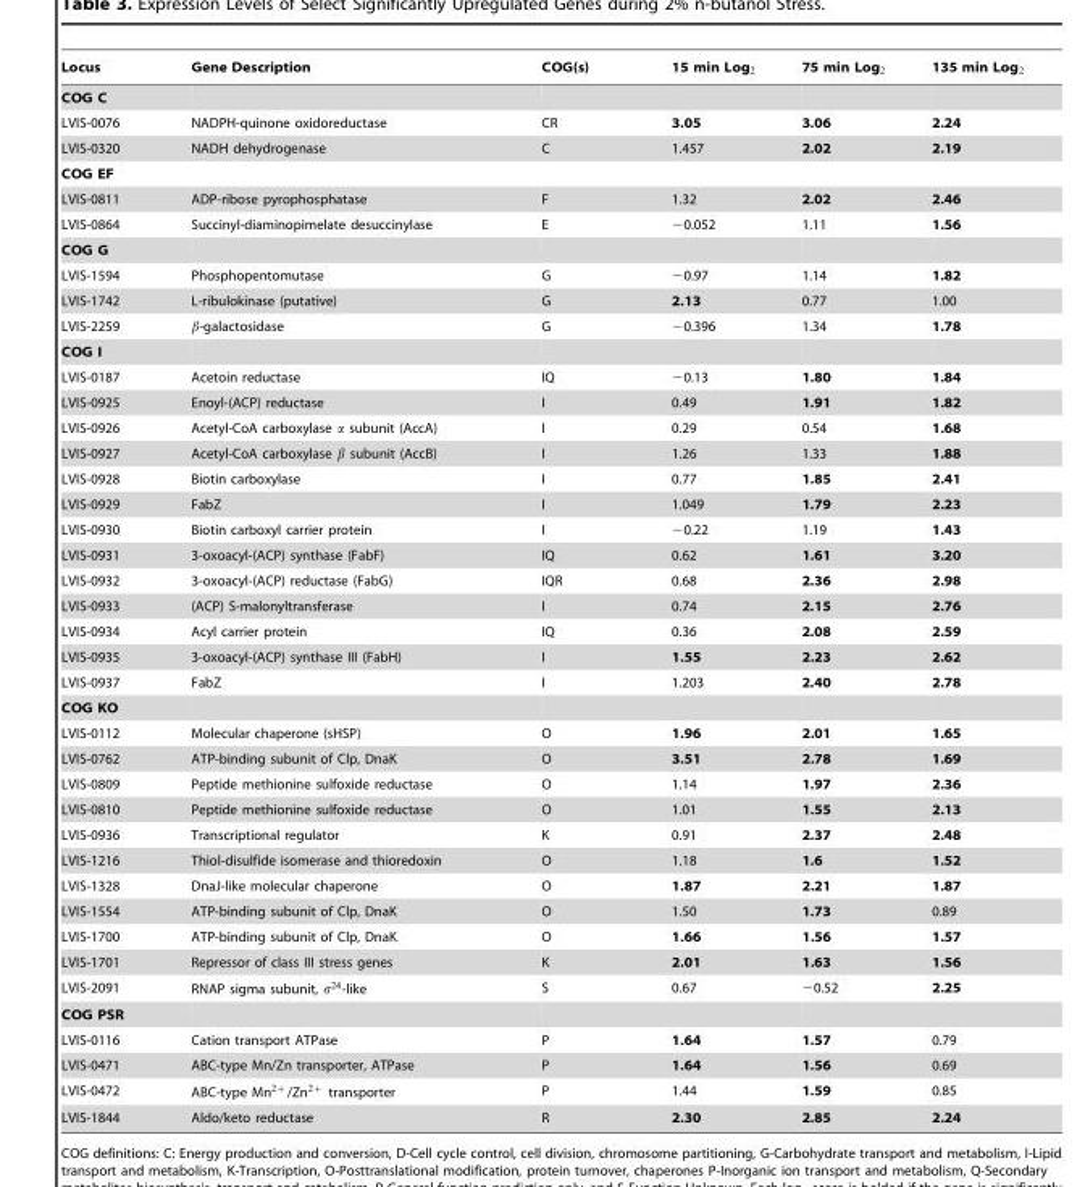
<table><thead><tr><td>Locus</td><td>Gene Description</td><td>COG(s)</td><td>15 min Log2</td><td>75 min Log2</td><td>135 min Log2</td></tr></thead><tbody><tr><td colspan="6">COG C</td></tr><tr><td>LVIS-0076</td><td>NADPH-quinone oxidoreductase</td><td>CR</td><td>3.05</td><td>3.06</td><td>2.24</td></tr><tr><td>LVIS-0320</td><td>NADH dehydrogenase</td><td>C</td><td>1.457</td><td>2.02</td><td>2.19</td></tr><tr><td colspan="6">COG EF</td></tr><tr><td>LVIS-0811</td><td>ADP-ribose pyrophosphatase</td><td>F</td><td>1.32</td><td>2.02</td><td>2.46</td></tr><tr><td>LVIS-0864</td><td>Succinyl-diaminopimelate desuccinylase</td><td>E</td><td>−0.052</td><td>1.11</td><td>1.56</td></tr><tr><td colspan="6">COG G</td></tr><tr><td>LVIS-1594</td><td>Phosphopentomutase</td><td>G</td><td>−0.97</td><td>1.14</td><td>1.82</td></tr><tr><td>LVIS-1742</td><td>L-ribulokinase (putative)</td><td>G</td><td>2.13</td><td>0.77</td><td>1.00</td></tr><tr><td>LVIS-2259</td><td>b-galactosidase</td><td>G</td><td>−0.396</td><td>1.34</td><td>1.78</td></tr><tr><td colspan="6">COG I</td></tr><tr><td>LVIS-0187</td><td>Acetoin reductase</td><td>IQ</td><td>−0.13</td><td>1.80</td><td>1.84</td></tr><tr><td>LVIS-0925</td><td>Enoyl-(ACP) reductase</td><td>I</td><td>0.49</td><td>1.91</td><td>1.82</td></tr><tr><td>LVIS-0926</td><td>Acetyl-CoA carboxylase a subunit (AccA)</td><td>I</td><td>0.29</td><td>0.54</td><td>1.68</td></tr><tr><td>LVIS-0927</td><td>Acetyl-CoA carboxylase b subunit (AccB)</td><td>I</td><td>1.26</td><td>1.33</td><td>1.88</td></tr><tr><td>LVIS-0928</td><td>Biotin carboxylase</td><td>I</td><td>0.77</td><td>1.85</td><td>2.41</td></tr><tr><td>LVIS-0929</td><td>FabZ</td><td>I</td><td>1.049</td><td>1.79</td><td>2.23</td></tr><tr><td>LVIS-0930</td><td>Biotin carboxyl carrier protein</td><td>I</td><td>−0.22</td><td>1.19</td><td>1.43</td></tr><tr><td>LVIS-0931</td><td>3-oxoacyl-(ACP) synthase (FabF)</td><td>IQ</td><td>0.62</td><td>1.61</td><td>3.20</td></tr><tr><td>LVIS-0932</td><td>3-oxoacyl-(ACP) reductase (FabG)</td><td>IQR</td><td>0.68</td><td>2.36</td><td>2.98</td></tr><tr><td>LVIS-0933</td><td>(ACP) S-malonyltransferase</td><td>I</td><td>0.74</td><td>2.15</td><td>2.76</td></tr><tr><td>LVIS-0934</td><td>Acyl carrier protein</td><td>IQ</td><td>0.36</td><td>2.08</td><td>2.59</td></tr><tr><td>LVIS-0935</td><td>3-oxoacyl-(ACP) synthase III (FabH)</td><td>I</td><td>1.55</td><td>2.23</td><td>2.62</td></tr><tr><td>LVIS-0937</td><td>FabZ</td><td>I</td><td>1.203</td><td>2.40</td><td>2.78</td></tr><tr><td colspan="6">COG KO</td></tr><tr><td>LVIS-0112</td><td>Molecular chaperone (sHSP)</td><td>O</td><td>1.96</td><td>2.01</td><td>1.65</td></tr><tr><td>LVIS-0762</td><td>ATP-binding subunit of Clp, DnaK</td><td>O</td><td>3.51</td><td>2.78</td><td>1.69</td></tr><tr><td>LVIS-0809</td><td>Peptide methionine sulfoxide reductase</td><td>O</td><td>1.14</td><td>1.97</td><td>2.36</td></tr><tr><td>LVIS-0810</td><td>Peptide methionine sulfoxide reductase</td><td>O</td><td>1.01</td><td>1.55</td><td>2.13</td></tr><tr><td>LVIS-0936</td><td>Transcriptional regulator</td><td>K</td><td>0.91</td><td>2.37</td><td>2.48</td></tr><tr><td>LVIS-1216</td><td>Thiol-disulfide isomerase and thioredoxin</td><td>O</td><td>1.18</td><td>1.6</td><td>1.52</td></tr><tr><td>LVIS-1328</td><td>DnaJ-like molecular chaperone</td><td>O</td><td>1.87</td><td>2.21</td><td>1.87</td></tr><tr><td>LVIS-1554</td><td>ATP-binding subunit of Clp, DnaK</td><td>O</td><td>1.50</td><td>1.73</td><td>0.89</td></tr><tr><td>LVIS-1700</td><td>ATP-binding subunit of Clp, DnaK</td><td>O</td><td>1.66</td><td>1.56</td><td>1.57</td></tr><tr><td>LVIS-1701</td><td>Repressor of class III stress genes</td><td>K</td><td>2.01</td><td>1.63</td><td>1.56</td></tr><tr><td>LVIS-2091</td><td>RNAP sigma subunit, s24-like</td><td>S</td><td>0.67</td><td>−0.52</td><td>2.25</td></tr><tr><td colspan="6">COG PSR</td></tr><tr><td>LVIS-0116</td><td>Cation transport ATPase</td><td>P</td><td>1.64</td><td>1.57</td><td>0.79</td></tr><tr><td>LVIS-0471</td><td>ABC-type Mn/Zn transporter, ATPase</td><td>P</td><td>1.64</td><td>1.56</td><td>0.69</td></tr><tr><td>LVIS-0472</td><td>ABC-type Mn2z/Zn2z transporter</td><td>P</td><td>1.44</td><td>1.59</td><td>0.85</td></tr><tr><td>LVIS-1844</td><td>Aldo/keto reductase</td><td>R</td><td>2.30</td><td>2.85</td><td>2.24</td></tr></tbody></table>